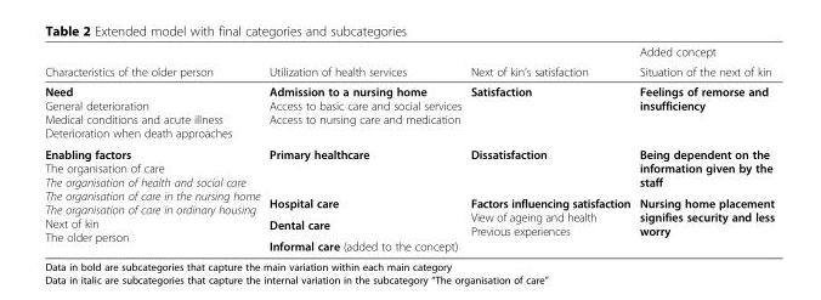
<table><thead><tr><td rowspan="2">Characteristics of the older person</td><td rowspan="2">Utilization of health services</td><td rowspan="2">Next of kin’s satisfaction</td><td rowspan="2">Added concept Situation of the next of kin</td></tr><tr></tr></thead><tbody><tr><td>Need General deterioration Medical conditions and acute illness Deterioration when death approaches</td><td>Admission to a nursing home Access to basic care and social services Access to nursing care and medication</td><td>Satisfaction</td><td>Feelings of remorse and insufficiency</td></tr><tr><td rowspan="4">Enabling factors The organisation of care The organisation of health and social care The organisation of care in the nursing home The organisation of care in ordinary housing Next of kin The older person</td><td>Primary healthcare</td><td>Dissatisfaction</td><td>Being dependent on the information given by the staff</td></tr><tr><td>Hospital care</td><td rowspan="3">Factors influencing satisfaction View of ageing and health Previous experiences</td><td rowspan="3">Nursing home placement signifies security and less worry</td></tr><tr><td>Dental care</td></tr><tr><td>Informal care (added to the concept)</td></tr></tbody></table>